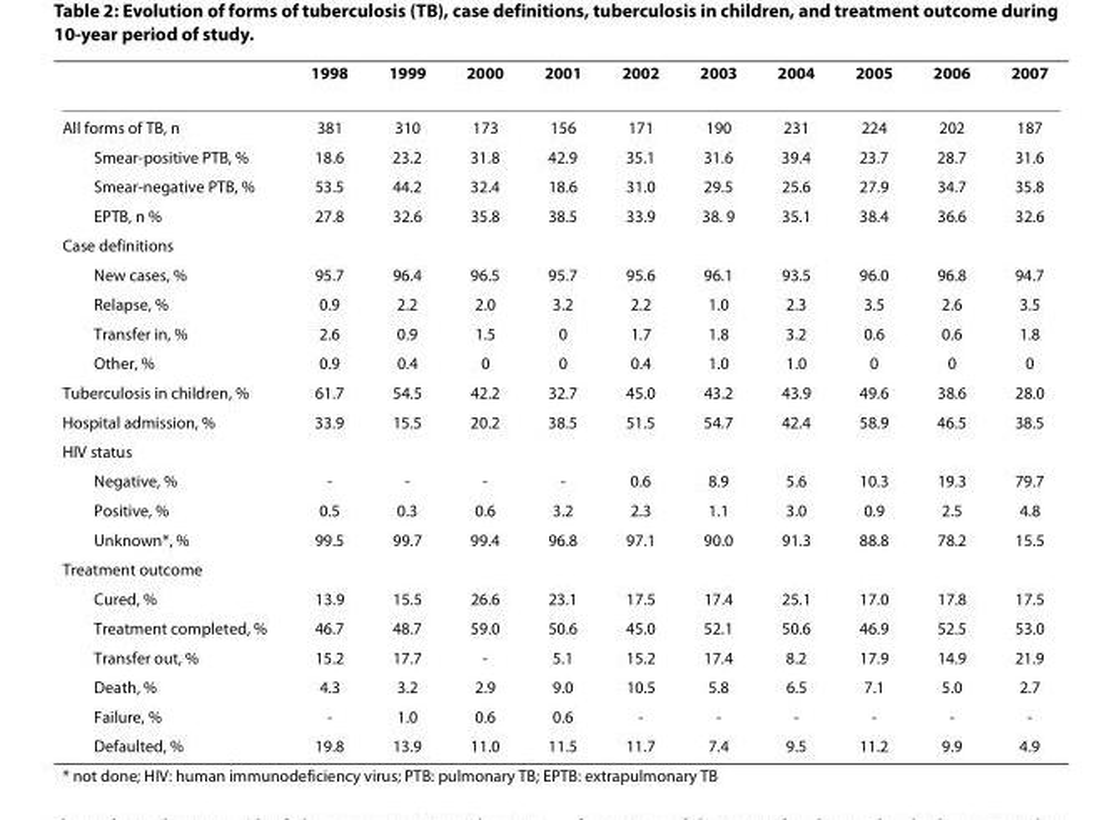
<table><thead><tr><td></td><td>1998</td><td>1999</td><td>2000</td><td>2001</td><td>2002</td><td>2003</td><td>2004</td><td>2005</td><td>2006</td><td>2007</td></tr></thead><tbody><tr><td>All forms of TB, n</td><td>381</td><td>310</td><td>173</td><td>156</td><td>171</td><td>190</td><td>231</td><td>224</td><td>202</td><td>187</td></tr><tr><td>Smear-positive PTB, %</td><td>18.6</td><td>23.2</td><td>31.8</td><td>42.9</td><td>35.1</td><td>31.6</td><td>39.4</td><td>23.7</td><td>28.7</td><td>31.6</td></tr><tr><td>Smear-negative PTB, %</td><td>53.5</td><td>44.2</td><td>32.4</td><td>18.6</td><td>31.0</td><td>29.5</td><td>25.6</td><td>27.9</td><td>34.7</td><td>35.8</td></tr><tr><td>EPTB, n %</td><td>27.8</td><td>32.6</td><td>35.8</td><td>38.5</td><td>33.9</td><td>38. 9</td><td>35.1</td><td>38.4</td><td>36.6</td><td>32.6</td></tr><tr><td colspan="11">Case definitions</td></tr><tr><td>New cases, %</td><td>95.7</td><td>96.4</td><td>96.5</td><td>95.7</td><td>95.6</td><td>96.1</td><td>93.5</td><td>96.0</td><td>96.8</td><td>94.7</td></tr><tr><td>Relapse, %</td><td>0.9</td><td>2.2</td><td>2.0</td><td>3.2</td><td>2.2</td><td>1.0</td><td>2.3</td><td>3.5</td><td>2.6</td><td>3.5</td></tr><tr><td>Transfer in, %</td><td>2.6</td><td>0.9</td><td>1.5</td><td>0</td><td>1.7</td><td>1.8</td><td>3.2</td><td>0.6</td><td>0.6</td><td>1.8</td></tr><tr><td>Other, %</td><td>0.9</td><td>0.4</td><td>0</td><td>0</td><td>0.4</td><td>1.0</td><td>1.0</td><td>0</td><td>0</td><td>0</td></tr><tr><td>Tuberculosis in children, %</td><td>61.7</td><td>54.5</td><td>42.2</td><td>32.7</td><td>45.0</td><td>43.2</td><td>43.9</td><td>49.6</td><td>38.6</td><td>28.0</td></tr><tr><td>Hospital admission, %</td><td>33.9</td><td>15.5</td><td>20.2</td><td>38.5</td><td>51.5</td><td>54.7</td><td>42.4</td><td>58.9</td><td>46.5</td><td>38.5</td></tr><tr><td colspan="11">HIV status</td></tr><tr><td>Negative, %</td><td>-</td><td>-</td><td>-</td><td>-</td><td>0.6</td><td>8.9</td><td>5.6</td><td>10.3</td><td>19.3</td><td>79.7</td></tr><tr><td>Positive, %</td><td>0.5</td><td>0.3</td><td>0.6</td><td>3.2</td><td>2.3</td><td>1.1</td><td>3.0</td><td>0.9</td><td>2.5</td><td>4.8</td></tr><tr><td>Unknown*, %</td><td>99.5</td><td>99.7</td><td>99.4</td><td>96.8</td><td>97.1</td><td>90.0</td><td>91.3</td><td>88.8</td><td>78.2</td><td>15.5</td></tr><tr><td colspan="11">Treatment outcome</td></tr><tr><td>Cured, %</td><td>13.9</td><td>15.5</td><td>26.6</td><td>23.1</td><td>17.5</td><td>17.4</td><td>25.1</td><td>17.0</td><td>17.8</td><td>17.5</td></tr><tr><td>Treatment completed, %</td><td>46.7</td><td>48.7</td><td>59.0</td><td>50.6</td><td>45.0</td><td>52.1</td><td>50.6</td><td>46.9</td><td>52.5</td><td>53.0</td></tr><tr><td>Transfer out, %</td><td>15.2</td><td>17.7</td><td>-</td><td>5.1</td><td>15.2</td><td>17.4</td><td>8.2</td><td>17.9</td><td>14.9</td><td>21.9</td></tr><tr><td>Death, %</td><td>4.3</td><td>3.2</td><td>2.9</td><td>9.0</td><td>10.5</td><td>5.8</td><td>6.5</td><td>7.1</td><td>5.0</td><td>2.7</td></tr><tr><td>Failure, %</td><td>-</td><td>1.0</td><td>0.6</td><td>0.6</td><td>-</td><td>-</td><td>-</td><td>-</td><td>-</td><td>-</td></tr><tr><td>Defaulted, %</td><td>19.8</td><td>13.9</td><td>11.0</td><td>11.5</td><td>11.7</td><td>7.4</td><td>9.5</td><td>11.2</td><td>9.9</td><td>4.9</td></tr></tbody></table>